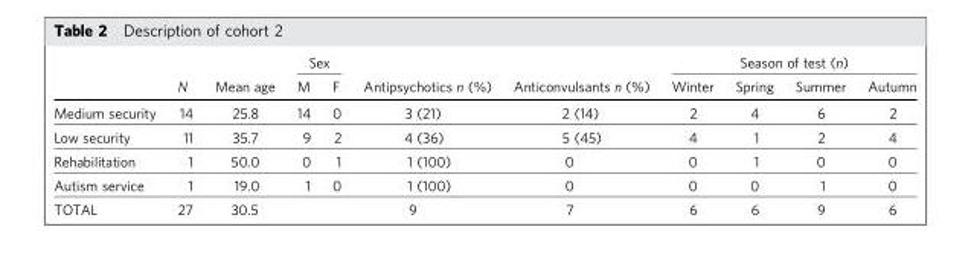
<table><thead><tr><td rowspan="2"></td><td rowspan="2">N</td><td rowspan="2">Mean age</td><td colspan="2">Sex</td><td rowspan="2">Antipsychotics n (%)</td><td rowspan="2">Anticonvulsants n (%)</td><td colspan="4">Season of test (n)</td></tr><tr><td>M</td><td>F</td><td>Winter</td><td>Spring</td><td>Summer</td><td>Autumn</td></tr></thead><tbody><tr><td>Medium security</td><td>14</td><td>25.8</td><td>14</td><td>0</td><td>3 (21)</td><td>2 (14)</td><td>2</td><td>4</td><td>6</td><td>2</td></tr><tr><td>Low security</td><td>11</td><td>35.7</td><td>9</td><td>2</td><td>4 (36)</td><td>5 (45)</td><td>4</td><td>1</td><td>2</td><td>4</td></tr><tr><td>Rehabilitation</td><td>1</td><td>50.0</td><td>0</td><td>1</td><td>1 (100)</td><td>0</td><td>0</td><td>1</td><td>0</td><td>0</td></tr><tr><td>Autism service</td><td>1</td><td>19.0</td><td>1</td><td>0</td><td>1 (100)</td><td>0</td><td>0</td><td>0</td><td>1</td><td>0</td></tr><tr><td>TOTAL</td><td>27</td><td>30.5</td><td></td><td></td><td>9</td><td>7</td><td>6</td><td>6</td><td>9</td><td>6</td></tr></tbody></table>